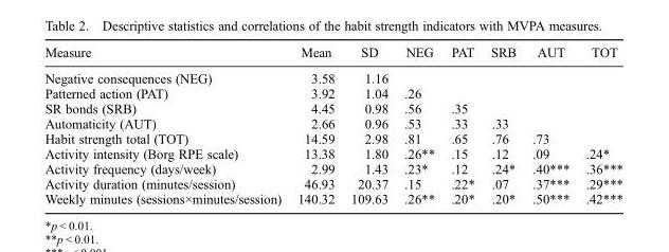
<table><thead><tr><td>Measure</td><td>Mean</td><td>SD</td><td>NEG</td><td>PAT</td><td>SRB</td><td>AUT</td><td>TOT</td></tr></thead><tbody><tr><td>Negative consequences (NEG)</td><td>3.58</td><td>1.16</td><td></td><td></td><td></td><td></td><td></td></tr><tr><td>Patterned action (PAT)</td><td>3.92</td><td>1.04</td><td>.26</td><td></td><td></td><td></td><td></td></tr><tr><td>SR bonds (SRB)</td><td>4.45</td><td>0.98</td><td>.56</td><td>.35</td><td></td><td></td><td></td></tr><tr><td>Automaticity (AUT)</td><td>2.66</td><td>0.96</td><td>.53</td><td>.33</td><td>.33</td><td></td><td></td></tr><tr><td>Habit strength total (TOT)</td><td>14.59</td><td>2.98</td><td>.81</td><td>.65</td><td>.76</td><td>.73</td><td></td></tr><tr><td>Activity intensity (Borg RPE scale)</td><td>13.38</td><td>1.80</td><td>.26**</td><td>.15</td><td>.12</td><td>.09</td><td>.24*</td></tr><tr><td>Activity frequency (days/week)</td><td>2.99</td><td>1.43</td><td>.23*</td><td>.12</td><td>.24*</td><td>.40***</td><td>.36***</td></tr><tr><td>Activity duration (minutes/session)</td><td>46.93</td><td>20.37</td><td>.15</td><td>.22*</td><td>.07</td><td>.37***</td><td>.29***</td></tr><tr><td>Weekly minutes (sessions×minutes/session)</td><td>140.32</td><td>109.63</td><td>.26**</td><td>.20*</td><td>.20*</td><td>.50***</td><td>.42***</td></tr></tbody></table>